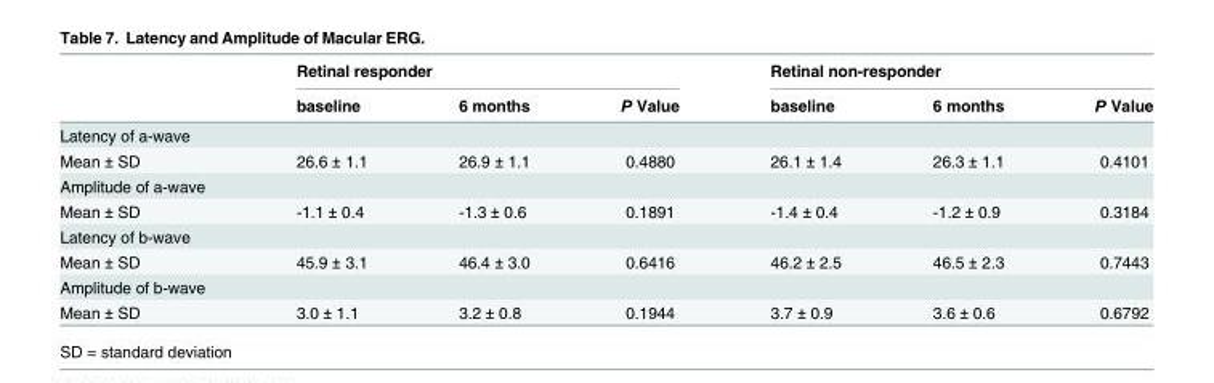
<table><thead><tr><td rowspan="2"></td><td colspan="3">Retinal responder</td><td colspan="3">Retinal non-responder</td></tr><tr><td>baseline</td><td>6 months</td><td>P Value</td><td>baseline</td><td>6 months</td><td>P Value</td></tr></thead><tbody><tr><td colspan="7">Latency of a-wave</td></tr><tr><td>Mean ± SD</td><td>26.6 ± 1.1</td><td>26.9 ± 1.1</td><td>0.4880</td><td>26.1 ± 1.4</td><td>26.3 ± 1.1</td><td>0.4101</td></tr><tr><td colspan="7">Amplitude of a-wave</td></tr><tr><td>Mean ± SD</td><td>-1.1 ± 0.4</td><td>-1.3 ± 0.6</td><td>0.1891</td><td>-1.4 ± 0.4</td><td>-1.2 ± 0.9</td><td>0.3184</td></tr><tr><td colspan="7">Latency of b-wave</td></tr><tr><td>Mean ± SD</td><td>45.9 ± 3.1</td><td>46.4 ± 3.0</td><td>0.6416</td><td>46.2 ± 2.5</td><td>46.5 ± 2.3</td><td>0.7443</td></tr><tr><td colspan="7">Amplitude of b-wave</td></tr><tr><td>Mean ± SD</td><td>3.0 ± 1.1</td><td>3.2 ± 0.8</td><td>0.1944</td><td>3.7 ± 0.9</td><td>3.6 ± 0.6</td><td>0.6792</td></tr></tbody></table>